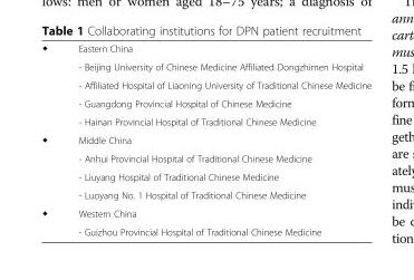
<table><tbody><tr><td rowspan="5">◆</td><td>Eastern China</td></tr><tr><td>- Beijing University of Chinese Medicine Affiliated Dongzhimen Hospital</td></tr><tr><td>- Affiliated Hospital of Liaoning University of Traditional Chinese Medicine</td></tr><tr><td>- Guangdong Provincial Hospital of Chinese Medicine</td></tr><tr><td>- Hainan Provincial Hospital of Traditional Chinese Medicine</td></tr><tr><td rowspan="4">◆</td><td>Middle China</td></tr><tr><td>- Anhui Provincial Hospital of Traditional Chinese Medicine</td></tr><tr><td>- Liuyang Hospital of Traditional Chinese Medicine</td></tr><tr><td>- Luoyang No. 1 Hospital of Traditional Chinese Medicine</td></tr><tr><td rowspan="2">◆</td><td>Western China</td></tr><tr><td>- Guizhou Provincial Hospital of Traditional Chinese Medicine</td></tr></tbody></table>